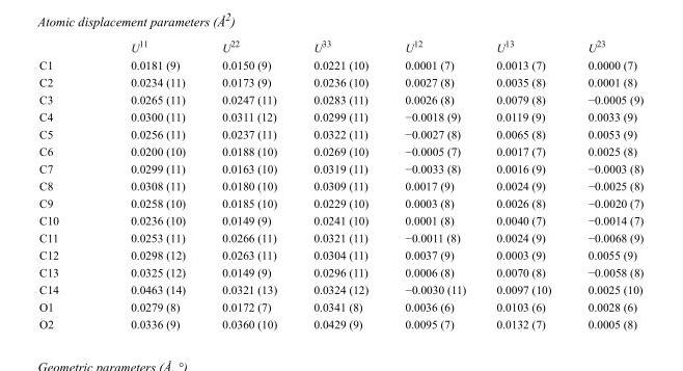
<table><thead><tr><td></td><td>U<sup>11</sup></td><td>U<sup>22</sup></td><td>U<sup>33</sup></td><td>U<sup>12</sup></td><td>U<sup>13</sup></td><td>U<sup>23</sup></td></tr></thead><tbody><tr><td>C1</td><td>0.0181 (9)</td><td>0.0150 (9)</td><td>0.0221 (10)</td><td>0.0001 (7)</td><td>0.0013 (7)</td><td>0.0000 (7)</td></tr><tr><td>C2</td><td>0.0234 (11)</td><td>0.0173 (9)</td><td>0.0236 (10)</td><td>0.0027 (8)</td><td>0.0035 (8)</td><td>0.0001 (8)</td></tr><tr><td>C3</td><td>0.0265 (11)</td><td>0.0247 (11)</td><td>0.0283 (11)</td><td>0.0026 (8)</td><td>0.0079 (8)</td><td>−0.0005 (9)</td></tr><tr><td>C4</td><td>0.0300 (11)</td><td>0.0311 (12)</td><td>0.0299 (11)</td><td>−0.0018 (9)</td><td>0.0119 (9)</td><td>0.0033 (9)</td></tr><tr><td>C5</td><td>0.0256 (11)</td><td>0.0237 (11)</td><td>0.0322 (11)</td><td>−0.0027 (8)</td><td>0.0065 (8)</td><td>0.0053 (9)</td></tr><tr><td>C6</td><td>0.0200 (10)</td><td>0.0188 (10)</td><td>0.0269 (10)</td><td>−0.0005 (7)</td><td>0.0017 (7)</td><td>0.0025 (8)</td></tr><tr><td>C7</td><td>0.0299 (11)</td><td>0.0163 (10)</td><td>0.0319 (11)</td><td>−0.0033 (8)</td><td>0.0016 (9)</td><td>−0.0003 (8)</td></tr><tr><td>C8</td><td>0.0308 (11)</td><td>0.0180 (10)</td><td>0.0309 (11)</td><td>0.0017 (9)</td><td>0.0024 (9)</td><td>−0.0025 (8)</td></tr><tr><td>C9</td><td>0.0258 (10)</td><td>0.0185 (10)</td><td>0.0229 (10)</td><td>0.0003 (8)</td><td>0.0026 (8)</td><td>−0.0020 (7)</td></tr><tr><td>C10</td><td>0.0236 (10)</td><td>0.0149 (9)</td><td>0.0241 (10)</td><td>0.0001 (8)</td><td>0.0040 (7)</td><td>−0.0014 (7)</td></tr><tr><td>C11</td><td>0.0253 (11)</td><td>0.0266 (11)</td><td>0.0321 (11)</td><td>−0.0011 (8)</td><td>0.0024 (9)</td><td>−0.0068 (9)</td></tr><tr><td>C12</td><td>0.0298 (12)</td><td>0.0263 (11)</td><td>0.0304 (11)</td><td>0.0037 (9)</td><td>0.0003 (9)</td><td>0.0055 (9)</td></tr><tr><td>C13</td><td>0.0325 (12)</td><td>0.0149 (9)</td><td>0.0296 (11)</td><td>0.0006 (8)</td><td>0.0070 (8)</td><td>−0.0058 (8)</td></tr><tr><td>C14</td><td>0.0463 (14)</td><td>0.0321 (13)</td><td>0.0324 (12)</td><td>−0.0030 (11)</td><td>0.0097 (10)</td><td>0.0025 (10)</td></tr><tr><td>O1</td><td>0.0279 (8)</td><td>0.0172 (7)</td><td>0.0341 (8)</td><td>0.0036 (6)</td><td>0.0103 (6)</td><td>0.0028 (6)</td></tr><tr><td>O2</td><td>0.0336 (9)</td><td>0.0360 (10)</td><td>0.0429 (9)</td><td>0.0095 (7)</td><td>0.0132 (7)</td><td>0.0005 (8)</td></tr></tbody></table>